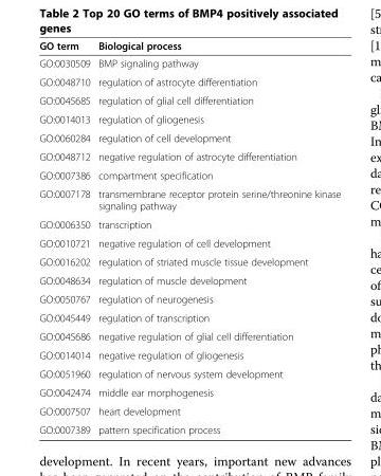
<table><thead><tr><td>GO term</td><td>Biological process</td></tr></thead><tbody><tr><td>GO:0030509</td><td>BMP signaling pathway</td></tr><tr><td>GO:0048710</td><td>regulation of astrocyte differentiation</td></tr><tr><td>GO:0045685</td><td>regulation of glial cell differentiation</td></tr><tr><td>GO:0014013</td><td>regulation of gliogenesis</td></tr><tr><td>GO:0060284</td><td>regulation of cell development</td></tr><tr><td>GO:0048712</td><td>negative regulation of astrocyte differentiation</td></tr><tr><td>GO:0007386</td><td>compartment specification</td></tr><tr><td>GO:0007178</td><td>transmembrane receptor protein serine/threonine kinase signaling pathway</td></tr><tr><td>GO:0006350</td><td>transcription</td></tr><tr><td>GO:0010721</td><td>negative regulation of cell development</td></tr><tr><td>GO:0016202</td><td>regulation of striated muscle tissue development</td></tr><tr><td>GO:0048634</td><td>regulation of muscle development</td></tr><tr><td>GO:0050767</td><td>regulation of neurogenesis</td></tr><tr><td>GO:0045449</td><td>regulation of transcription</td></tr><tr><td>GO:0045686</td><td>negative regulation of glial cell differentiation</td></tr><tr><td>GO:0014014</td><td>negative regulation of gliogenesis</td></tr><tr><td>GO:0051960</td><td>regulation of nervous system development</td></tr><tr><td>GO:0042474</td><td>middle ear morphogenesis</td></tr><tr><td>GO:0007507</td><td>heart development</td></tr><tr><td>GO:0007389</td><td>pattern specification process</td></tr></tbody></table>